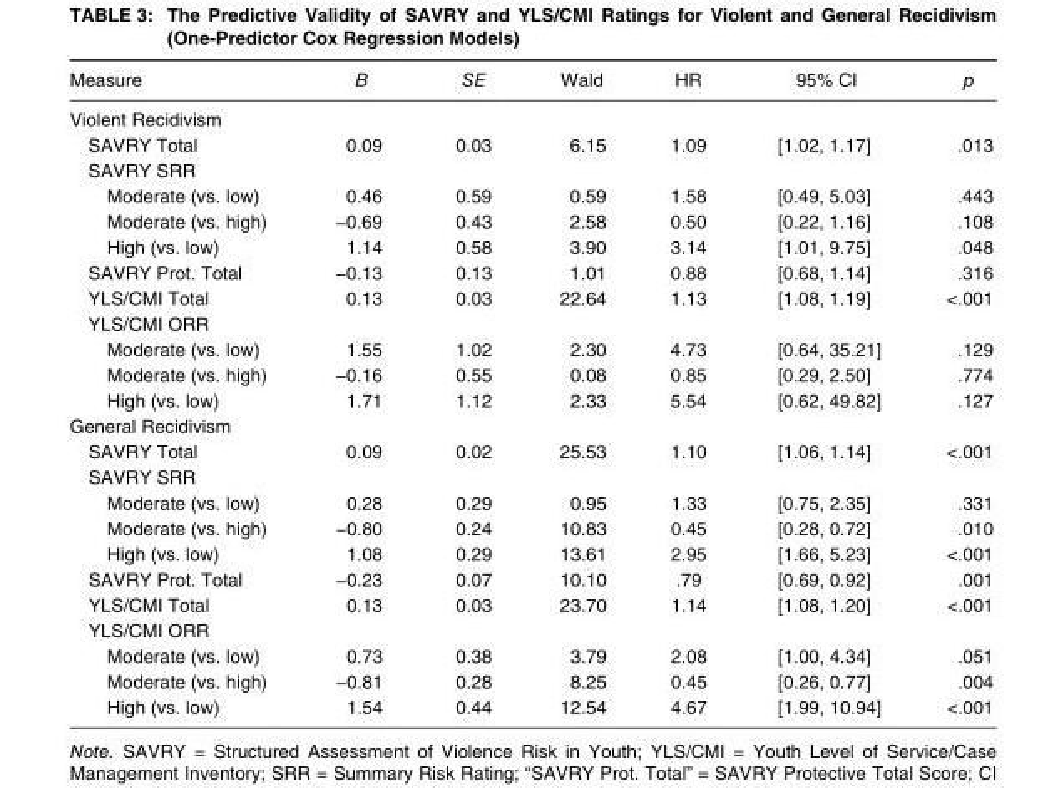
<table><thead><tr><td>Measure</td><td>B</td><td>SE</td><td>Wald</td><td>HR</td><td>95% CI</td><td>p</td></tr></thead><tbody><tr><td colspan="7">Violent Recidivism</td></tr><tr><td>SAVRY Total</td><td>0.09</td><td>0.03</td><td>6.15</td><td>1.09</td><td>[1.02, 1.17]</td><td>.013</td></tr><tr><td colspan="7">SAVRY SRR</td></tr><tr><td>Moderate (vs. low)</td><td>0.46</td><td>0.59</td><td>0.59</td><td>1.58</td><td>[0.49, 5.03]</td><td>.443</td></tr><tr><td>Moderate (vs. high)</td><td>−0.69</td><td>0.43</td><td>2.58</td><td>0.50</td><td>[0.22, 1.16]</td><td>.108</td></tr><tr><td>High (vs. low)</td><td>1.14</td><td>0.58</td><td>3.90</td><td>3.14</td><td>[1.01, 9.75]</td><td>.048</td></tr><tr><td>SAVRY Prot. Total</td><td>−0.13</td><td>0.13</td><td>1.01</td><td>0.88</td><td>[0.68, 1.14]</td><td>.316</td></tr><tr><td>YLS/CMI Total</td><td>0.13</td><td>0.03</td><td>22.64</td><td>1.13</td><td>[1.08, 1.19]</td><td>&lt;.001</td></tr><tr><td colspan="7">YLS/CMI ORR</td></tr><tr><td>Moderate (vs. low)</td><td>1.55</td><td>1.02</td><td>2.30</td><td>4.73</td><td>[0.64, 35.21]</td><td>.129</td></tr><tr><td>Moderate (vs. high)</td><td>−0.16</td><td>0.55</td><td>0.08</td><td>0.85</td><td>[0.29, 2.50]</td><td>.774</td></tr><tr><td>High (vs. low)</td><td>1.71</td><td>1.12</td><td>2.33</td><td>5.54</td><td>[0.62, 49.82]</td><td>.127</td></tr><tr><td colspan="7">General Recidivism</td></tr><tr><td>SAVRY Total</td><td>0.09</td><td>0.02</td><td>25.53</td><td>1.10</td><td>[1.06, 1.14]</td><td>&lt;.001</td></tr><tr><td colspan="7">SAVRY SRR</td></tr><tr><td>Moderate (vs. low)</td><td>0.28</td><td>0.29</td><td>0.95</td><td>1.33</td><td>[0.75, 2.35]</td><td>.331</td></tr><tr><td>Moderate (vs. high)</td><td>−0.80</td><td>0.24</td><td>10.83</td><td>0.45</td><td>[0.28, 0.72]</td><td>.010</td></tr><tr><td>High (vs. low)</td><td>1.08</td><td>0.29</td><td>13.61</td><td>2.95</td><td>[1.66, 5.23]</td><td>&lt;.001</td></tr><tr><td>SAVRY Prot. Total</td><td>−0.23</td><td>0.07</td><td>10.10</td><td>.79</td><td>[0.69, 0.92]</td><td>.001</td></tr><tr><td>YLS/CMI Total</td><td>0.13</td><td>0.03</td><td>23.70</td><td>1.14</td><td>[1.08, 1.20]</td><td>&lt;.001</td></tr><tr><td colspan="7">YLS/CMI ORR</td></tr><tr><td>Moderate (vs. low)</td><td>0.73</td><td>0.38</td><td>3.79</td><td>2.08</td><td>[1.00, 4.34]</td><td>.051</td></tr><tr><td>Moderate (vs. high)</td><td>−0.81</td><td>0.28</td><td>8.25</td><td>0.45</td><td>[0.26, 0.77]</td><td>.004</td></tr><tr><td>High (vs. low)</td><td>1.54</td><td>0.44</td><td>12.54</td><td>4.67</td><td>[1.99, 10.94]</td><td>&lt;.001</td></tr></tbody></table>